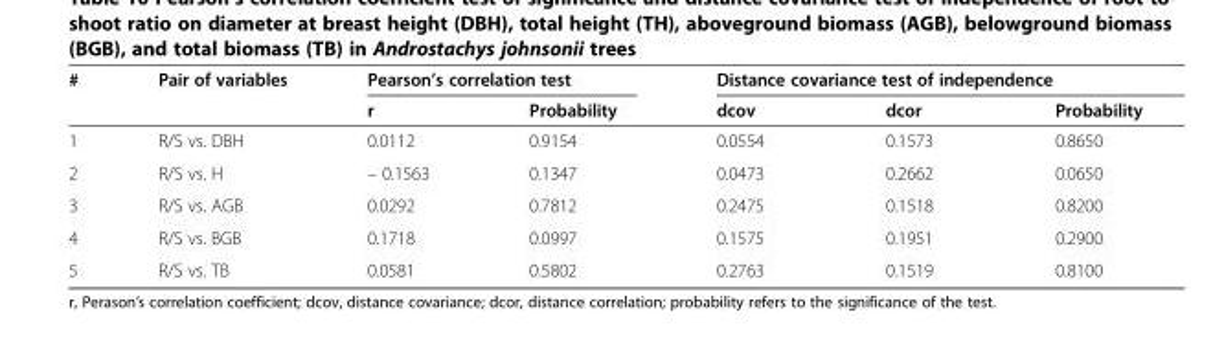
<table><thead><tr><td rowspan="2">#</td><td rowspan="2">Pair of variables</td><td colspan="2">Pearson’s correlation test</td><td colspan="3">Distance covariance test of independence</td></tr><tr><td>r</td><td>Probability</td><td>dcov</td><td>dcor</td><td>Probability</td></tr></thead><tbody><tr><td>1</td><td>R/S vs. DBH</td><td>0.0112</td><td>0.9154</td><td>0.0554</td><td>0.1573</td><td>0.8650</td></tr><tr><td>2</td><td>R/S vs. H</td><td>– 0.1563</td><td>0.1347</td><td>0.0473</td><td>0.2662</td><td>0.0650</td></tr><tr><td>3</td><td>R/S vs. AGB</td><td>0.0292</td><td>0.7812</td><td>0.2475</td><td>0.1518</td><td>0.8200</td></tr><tr><td>4</td><td>R/S vs. BGB</td><td>0.1718</td><td>0.0997</td><td>0.1575</td><td>0.1951</td><td>0.2900</td></tr><tr><td>5</td><td>R/S vs. TB</td><td>0.0581</td><td>0.5802</td><td>0.2763</td><td>0.1519</td><td>0.8100</td></tr></tbody></table>